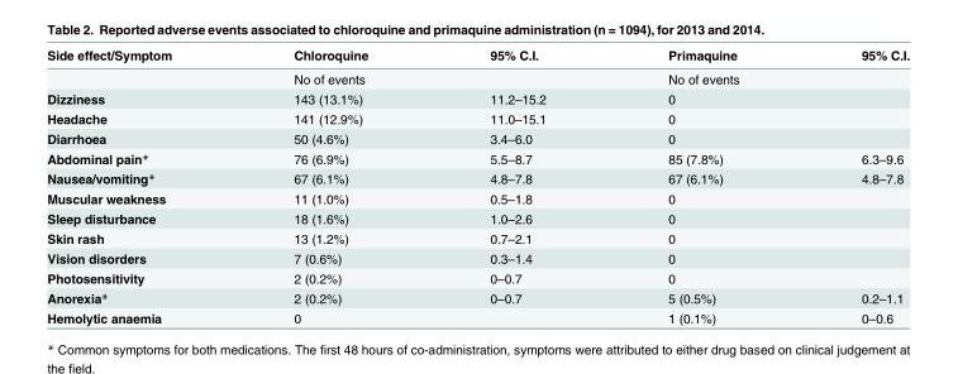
<table><thead><tr><td>Side effect/Symptom</td><td>Chloroquine</td><td>95% C.I.</td><td>Primaquine</td><td>95% C.I.</td></tr></thead><tbody><tr><td></td><td>No of events</td><td></td><td>No of events</td><td></td></tr><tr><td>Dizziness</td><td>143 (13.1%)</td><td>11.2–15.2</td><td>0</td><td></td></tr><tr><td>Headache</td><td>141 (12.9%)</td><td>11.0–15.1</td><td>0</td><td></td></tr><tr><td>Diarrhoea</td><td>50 (4.6%)</td><td>3.4–6.0</td><td>0</td><td></td></tr><tr><td>Abdominal pain*</td><td>76 (6.9%)</td><td>5.5–8.7</td><td>85 (7.8%)</td><td>6.3–9.6</td></tr><tr><td>Nausea/vomiting*</td><td>67 (6.1%)</td><td>4.8–7.8</td><td>67 (6.1%)</td><td>4.8–7.8</td></tr><tr><td>Muscular weakness</td><td>11 (1.0%)</td><td>0.5–1.8</td><td>0</td><td></td></tr><tr><td>Sleep disturbance</td><td>18 (1.6%)</td><td>1.0–2.6</td><td>0</td><td></td></tr><tr><td>Skin rash</td><td>13 (1.2%)</td><td>0.7–2.1</td><td>0</td><td></td></tr><tr><td>Vision disorders</td><td>7 (0.6%)</td><td>0.3–1.4</td><td>0</td><td></td></tr><tr><td>Photosensitivity</td><td>2 (0.2%)</td><td>0–0.7</td><td>0</td><td></td></tr><tr><td>Anorexia*</td><td>2 (0.2%)</td><td>0–0.7</td><td>5 (0.5%)</td><td>0.2–1.1</td></tr><tr><td>Hemolytic anaemia</td><td>0</td><td></td><td>1 (0.1%)</td><td>0–0.6</td></tr></tbody></table>